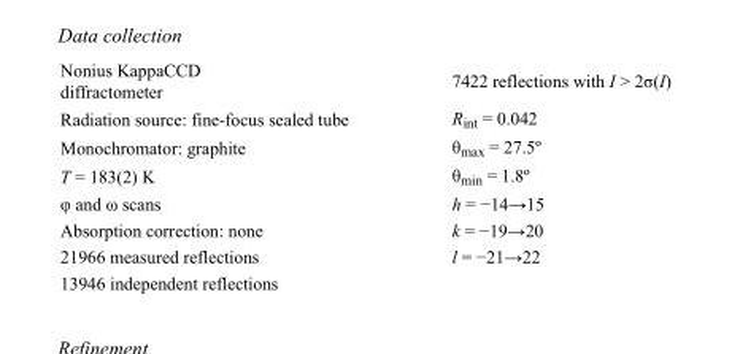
<table><tbody><tr><td>Nonius KappaCCD diffractometer</td><td>7422 reflections with I &gt; 2σ(I)</td></tr><tr><td>Radiation source: fine-focus sealed tube</td><td>R<sub>int</sub> = 0.042</td></tr><tr><td>Monochromator: graphite</td><td>θ<sub>max</sub> = 27.5º</td></tr><tr><td>T = 183(2) K</td><td>θ<sub>min</sub> = 1.8º</td></tr><tr><td>φ and ω scans</td><td>h = −14→15</td></tr><tr><td>Absorption correction: none</td><td>k = −19→20</td></tr><tr><td>21966 measured reflections</td><td>l = −21→22</td></tr><tr><td>13946 independent reflections</td><td></td></tr></tbody></table>